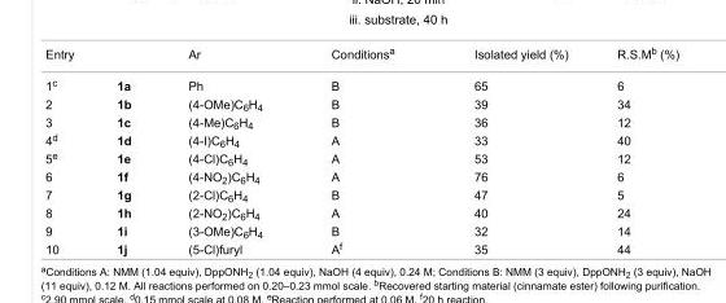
<table><tbody><tr><td>Entry</td><td></td><td>Ar</td><td>Conditions<sup>a</sup></td><td>Isolated yield (%)</td><td>R.S.M<sup>b</sup> (%)</td></tr><tr><td>1<sup>c</sup></td><td>1a</td><td>Ph</td><td>B</td><td>65</td><td>6</td></tr><tr><td>2</td><td>1b</td><td>(4-OMe)C<sub>6</sub>H<sub>4</sub></td><td>B</td><td>39</td><td>34</td></tr><tr><td>3</td><td>1c</td><td>(4-Me)C<sub>6</sub>H<sub>4</sub></td><td>B</td><td>36</td><td>12</td></tr><tr><td>4<sup>d</sup></td><td>1d</td><td>(4-I)C<sub>6</sub>H<sub>4</sub></td><td>A</td><td>33</td><td>40</td></tr><tr><td>5<sup>e</sup></td><td>1e</td><td>(4-Cl)C<sub>6</sub>H<sub>4</sub></td><td>A</td><td>53</td><td>12</td></tr><tr><td>6</td><td>1f</td><td>(4-NO<sub>2</sub>)C<sub>6</sub>H<sub>4</sub></td><td>A</td><td>76</td><td>6</td></tr><tr><td>7</td><td>1g</td><td>(2-Cl)C<sub>6</sub>H<sub>4</sub></td><td>B</td><td>47</td><td>5</td></tr><tr><td>8</td><td>1h</td><td>(2-NO<sub>2</sub>)C<sub>6</sub>H<sub>4</sub></td><td>A</td><td>40</td><td>24</td></tr><tr><td>9</td><td>1i</td><td>(3-OMe)C<sub>6</sub>H<sub>4</sub></td><td>B</td><td>32</td><td>14</td></tr><tr><td>10</td><td>1j</td><td>(5-Cl)furyl</td><td>A<sup>f</sup></td><td>35</td><td>44</td></tr></tbody></table>